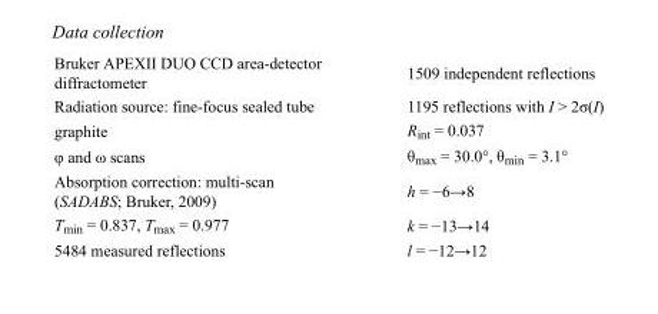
<table><tbody><tr><td>Bruker APEXII DUO CCD area-detector diffractometer</td><td>1509 independent reflections</td></tr><tr><td>Radiation source: fine-focus sealed tube</td><td>1195 reflections with I &gt; 2σ(I)</td></tr><tr><td>graphite</td><td>R<sub>int</sub> = 0.037</td></tr><tr><td>φ and ω scans</td><td>θ<sub>max</sub> = 30.0°, θ<sub>min</sub> = 3.1°</td></tr><tr><td>Absorption correction: multi-scan (SADABS; Bruker, 2009)</td><td>h = −6→8</td></tr><tr><td>T<sub>min</sub> = 0.837, T<sub>max</sub> = 0.977</td><td>k = −13→14</td></tr><tr><td>5484 measured reflections</td><td>l = −12→12</td></tr></tbody></table>